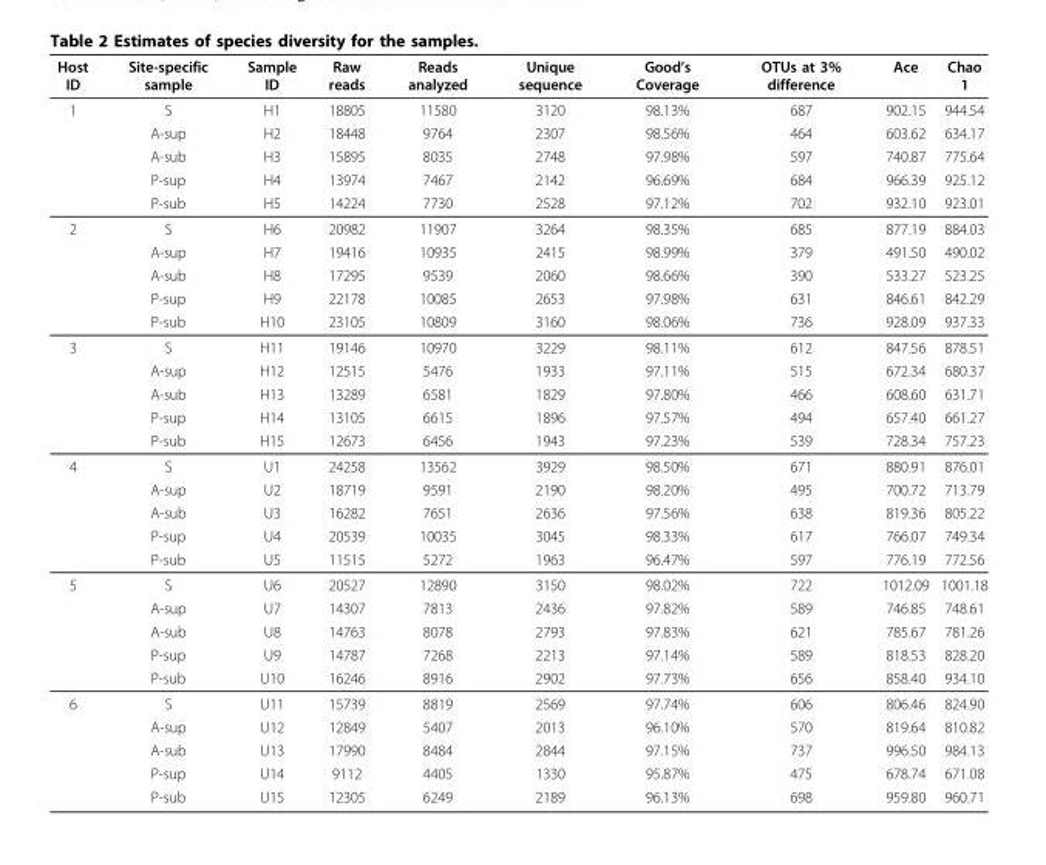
<table><thead><tr><td>Host ID</td><td>Site-specific sample</td><td>Sample ID</td><td>Raw reads</td><td>Reads analyzed</td><td>Unique sequence</td><td>Good’s Coverage</td><td>OTUs at 3% difference</td><td>Ace</td><td>Chao 1</td></tr></thead><tbody><tr><td rowspan="5">1</td><td>S</td><td>H1</td><td>18805</td><td>11580</td><td>3120</td><td>98.13%</td><td>687</td><td>902.15</td><td>944.54</td></tr><tr><td>A-sup</td><td>H2</td><td>18448</td><td>9764</td><td>2307</td><td>98.56%</td><td>464</td><td>603.62</td><td>634.17</td></tr><tr><td>A-sub</td><td>H3</td><td>15895</td><td>8035</td><td>2748</td><td>97.98%</td><td>597</td><td>740.87</td><td>775.64</td></tr><tr><td>P-sup</td><td>H4</td><td>13974</td><td>7467</td><td>2142</td><td>96.69%</td><td>684</td><td>966.39</td><td>925.12</td></tr><tr><td>P-sub</td><td>H5</td><td>14224</td><td>7730</td><td>2528</td><td>97.12%</td><td>702</td><td>932.10</td><td>923.01</td></tr><tr><td rowspan="5">2</td><td>S</td><td>H6</td><td>20982</td><td>11907</td><td>3264</td><td>98.35%</td><td>685</td><td>877.19</td><td>884.03</td></tr><tr><td>A-sup</td><td>H7</td><td>19416</td><td>10935</td><td>2415</td><td>98.99%</td><td>379</td><td>491.50</td><td>490.02</td></tr><tr><td>A-sub</td><td>H8</td><td>17295</td><td>9539</td><td>2060</td><td>98.66%</td><td>390</td><td>533.27</td><td>523.25</td></tr><tr><td>P-sup</td><td>H9</td><td>22178</td><td>10085</td><td>2653</td><td>97.98%</td><td>631</td><td>846.61</td><td>842.29</td></tr><tr><td>P-sub</td><td>H10</td><td>23105</td><td>10809</td><td>3160</td><td>98.06%</td><td>736</td><td>928.09</td><td>937.33</td></tr><tr><td rowspan="5">3</td><td>S</td><td>H11</td><td>19146</td><td>10970</td><td>3229</td><td>98.11%</td><td>612</td><td>847.56</td><td>878.51</td></tr><tr><td>A-sup</td><td>H12</td><td>12515</td><td>5476</td><td>1933</td><td>97.11%</td><td>515</td><td>672.34</td><td>680.37</td></tr><tr><td>A-sub</td><td>H13</td><td>13289</td><td>6581</td><td>1829</td><td>97.80%</td><td>466</td><td>608.60</td><td>631.71</td></tr><tr><td>P-sup</td><td>H14</td><td>13105</td><td>6615</td><td>1896</td><td>97.57%</td><td>494</td><td>657.40</td><td>661.27</td></tr><tr><td>P-sub</td><td>H15</td><td>12673</td><td>6456</td><td>1943</td><td>97.23%</td><td>539</td><td>728.34</td><td>757.23</td></tr><tr><td rowspan="5">4</td><td>S</td><td>U1</td><td>24258</td><td>13562</td><td>3929</td><td>98.50%</td><td>671</td><td>880.91</td><td>876.01</td></tr><tr><td>A-sup</td><td>U2</td><td>18719</td><td>9591</td><td>2190</td><td>98.20%</td><td>495</td><td>700.72</td><td>713.79</td></tr><tr><td>A-sub</td><td>U3</td><td>16282</td><td>7651</td><td>2636</td><td>97.56%</td><td>638</td><td>819.36</td><td>805.22</td></tr><tr><td>P-sup</td><td>U4</td><td>20539</td><td>10035</td><td>3045</td><td>98.33%</td><td>617</td><td>766.07</td><td>749.34</td></tr><tr><td>P-sub</td><td>U5</td><td>11515</td><td>5272</td><td>1963</td><td>96.47%</td><td>597</td><td>776.19</td><td>772.56</td></tr><tr><td rowspan="5">5</td><td>S</td><td>U6</td><td>20527</td><td>12890</td><td>3150</td><td>98.02%</td><td>722</td><td>1012.09</td><td>1001.18</td></tr><tr><td>A-sup</td><td>U7</td><td>14307</td><td>7813</td><td>2436</td><td>97.82%</td><td>589</td><td>746.85</td><td>748.61</td></tr><tr><td>A-sub</td><td>U8</td><td>14763</td><td>8078</td><td>2793</td><td>97.83%</td><td>621</td><td>785.67</td><td>781.26</td></tr><tr><td>P-sup</td><td>U9</td><td>14787</td><td>7268</td><td>2213</td><td>97.14%</td><td>589</td><td>818.53</td><td>828.20</td></tr><tr><td>P-sub</td><td>U10</td><td>16246</td><td>8916</td><td>2902</td><td>97.73%</td><td>656</td><td>858.40</td><td>934.10</td></tr><tr><td rowspan="5">6</td><td>S</td><td>U11</td><td>15739</td><td>8819</td><td>2569</td><td>97.74%</td><td>606</td><td>806.46</td><td>824.90</td></tr><tr><td>A-sup</td><td>U12</td><td>12849</td><td>5407</td><td>2013</td><td>96.10%</td><td>570</td><td>819.64</td><td>810.82</td></tr><tr><td>A-sub</td><td>U13</td><td>17990</td><td>8484</td><td>2844</td><td>97.15%</td><td>737</td><td>996.50</td><td>984.13</td></tr><tr><td>P-sup</td><td>U14</td><td>9112</td><td>4405</td><td>1330</td><td>95.87%</td><td>475</td><td>678.74</td><td>671.08</td></tr><tr><td>P-sub</td><td>U15</td><td>12305</td><td>6249</td><td>2189</td><td>96.13%</td><td>698</td><td>959.80</td><td>960.71</td></tr></tbody></table>